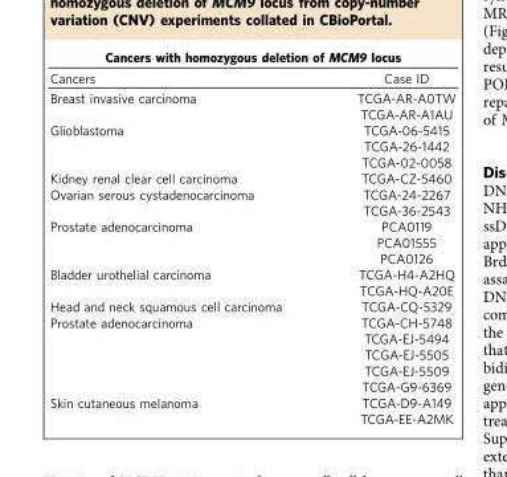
<table><thead><tr><td colspan="2">Cancers with homozygous deletion of MCM9 locus</td></tr><tr><td>Cancers</td><td>Case ID</td></tr></thead><tbody><tr><td rowspan="2">Breast invasive carcinoma</td><td>TCGA-AR-A0TW</td></tr><tr><td>TCGA-AR-A1AU</td></tr><tr><td rowspan="3">Glioblastoma</td><td>TCGA-06-5415</td></tr><tr><td>TCGA-26-1442</td></tr><tr><td>TCGA-02-0058</td></tr><tr><td>Kidney renal clear cell carcinoma</td><td>TCGA-CZ-5460</td></tr><tr><td rowspan="2">Ovarian serous cystadenocarcinoma</td><td>TCGA-24-2267</td></tr><tr><td>TCGA-36-2543</td></tr><tr><td rowspan="3">Prostate adenocarcinoma</td><td>PCA0119</td></tr><tr><td>PCA01555</td></tr><tr><td>PCA0126</td></tr><tr><td rowspan="2">Bladder urothelial carcinoma</td><td>TCGA-H4-A2HQ</td></tr><tr><td>TCGA-HQ-A20E</td></tr><tr><td>Head and neck squamous cell carcinoma</td><td>TCGA-CQ-5329</td></tr><tr><td rowspan="5">Prostate adenocarcinoma</td><td>TCGA-CH-5748</td></tr><tr><td>TCGA-EJ-5494</td></tr><tr><td>TCGA-EJ-5505</td></tr><tr><td>TCGA-EJ-5509</td></tr><tr><td>TCGA-G9-6369</td></tr><tr><td rowspan="2">Skin cutaneous melanoma</td><td>TCGA-D9-A149</td></tr><tr><td>TCGA-EE-A2MK</td></tr></tbody></table>